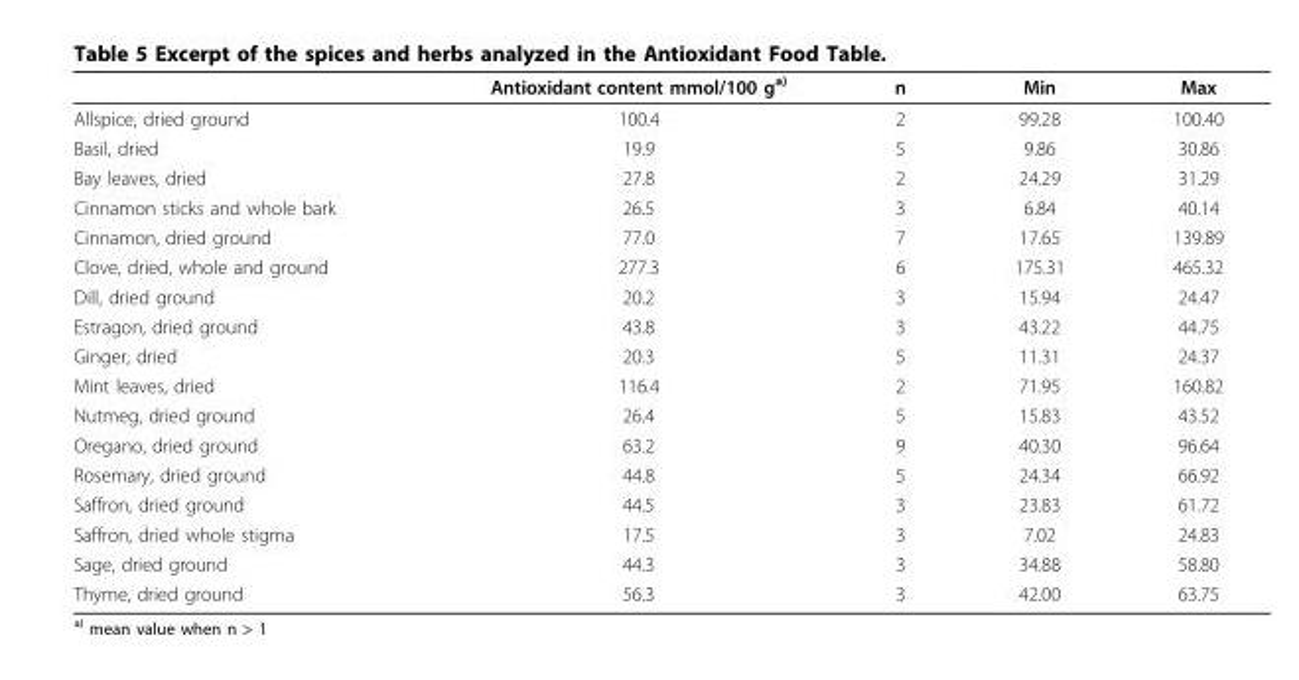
<table><thead><tr><td></td><td>Antioxidant content mmol/100 g<sup>a)</sup></td><td>n</td><td>Min</td><td>Max</td></tr></thead><tbody><tr><td>Allspice, dried ground</td><td>100.4</td><td>2</td><td>99.28</td><td>100.40</td></tr><tr><td>Basil, dried</td><td>19.9</td><td>5</td><td>9.86</td><td>30.86</td></tr><tr><td>Bay leaves, dried</td><td>27.8</td><td>2</td><td>24.29</td><td>31.29</td></tr><tr><td>Cinnamon sticks and whole bark</td><td>26.5</td><td>3</td><td>6.84</td><td>40.14</td></tr><tr><td>Cinnamon, dried ground</td><td>77.0</td><td>7</td><td>17.65</td><td>139.89</td></tr><tr><td>Clove, dried, whole and ground</td><td>277.3</td><td>6</td><td>175.31</td><td>465.32</td></tr><tr><td>Dill, dried ground</td><td>20.2</td><td>3</td><td>15.94</td><td>24.47</td></tr><tr><td>Estragon, dried ground</td><td>43.8</td><td>3</td><td>43.22</td><td>44.75</td></tr><tr><td>Ginger, dried</td><td>20.3</td><td>5</td><td>11.31</td><td>24.37</td></tr><tr><td>Mint leaves, dried</td><td>116.4</td><td>2</td><td>71.95</td><td>160.82</td></tr><tr><td>Nutmeg, dried ground</td><td>26.4</td><td>5</td><td>15.83</td><td>43.52</td></tr><tr><td>Oregano, dried ground</td><td>63.2</td><td>9</td><td>40.30</td><td>96.64</td></tr><tr><td>Rosemary, dried ground</td><td>44.8</td><td>5</td><td>24.34</td><td>66.92</td></tr><tr><td>Saffron, dried ground</td><td>44.5</td><td>3</td><td>23.83</td><td>61.72</td></tr><tr><td>Saffron, dried whole stigma</td><td>17.5</td><td>3</td><td>7.02</td><td>24.83</td></tr><tr><td>Sage, dried ground</td><td>44.3</td><td>3</td><td>34.88</td><td>58.80</td></tr><tr><td>Thyme, dried ground</td><td>56.3</td><td>3</td><td>42.00</td><td>63.75</td></tr></tbody></table>